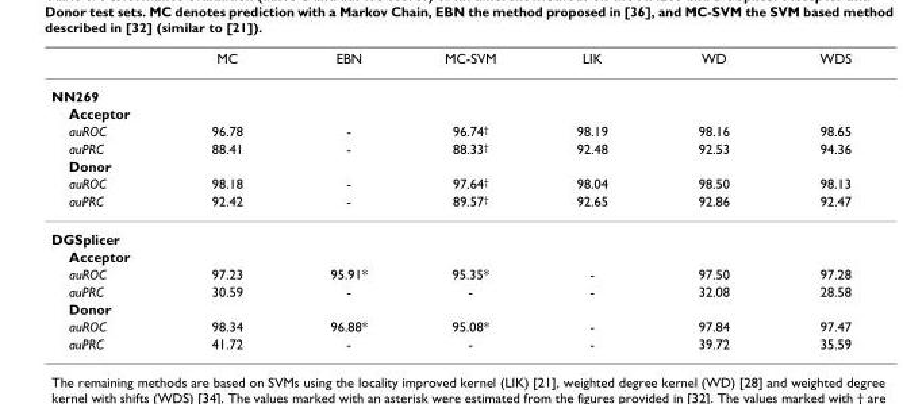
<table><thead><tr><td></td><td>MC</td><td>EBN</td><td>MC-SVM</td><td>LIK</td><td>WD</td><td>WDS</td></tr></thead><tbody><tr><td colspan="7">NN269</td></tr><tr><td colspan="7">Acceptor</td></tr><tr><td>auROC</td><td>96.78</td><td>-</td><td>96.74<sup>†</sup></td><td>98.19</td><td>98.16</td><td>98.65</td></tr><tr><td>auPRC</td><td>88.41</td><td>-</td><td>88.33<sup>†</sup></td><td>92.48</td><td>92.53</td><td>94.36</td></tr><tr><td colspan="7">Donor</td></tr><tr><td>auROC</td><td>98.18</td><td>-</td><td>97.64<sup>†</sup></td><td>98.04</td><td>98.50</td><td>98.13</td></tr><tr><td>auPRC</td><td>92.42</td><td>-</td><td>89.57<sup>†</sup></td><td>92.65</td><td>92.86</td><td>92.47</td></tr><tr><td colspan="7">DGSplicer</td></tr><tr><td colspan="7">Acceptor</td></tr><tr><td>auROC</td><td>97.23</td><td>95.91*</td><td>95.35*</td><td>-</td><td>97.50</td><td>97.28</td></tr><tr><td>auPRC</td><td>30.59</td><td>-</td><td>-</td><td>-</td><td>32.08</td><td>28.58</td></tr><tr><td colspan="7">Donor</td></tr><tr><td>auROC</td><td>98.34</td><td>96.88*</td><td>95.08*</td><td>-</td><td>97.84</td><td>97.47</td></tr><tr><td>auPRC</td><td>41.72</td><td>-</td><td>-</td><td>-</td><td>39.72</td><td>35.59</td></tr></tbody></table>